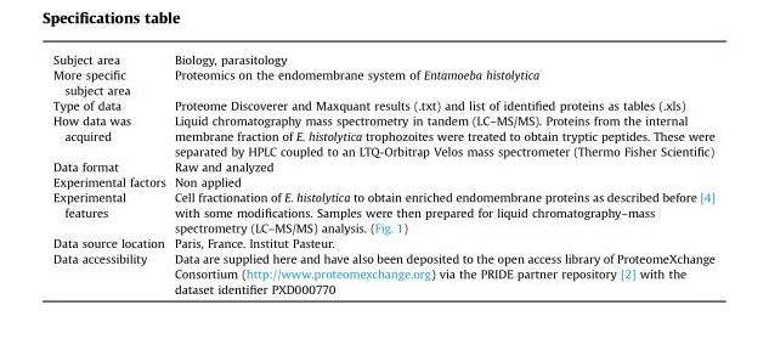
<table><tbody><tr><td>Subject area</td><td>Biology, parasitology</td></tr><tr><td>More specific subject area</td><td>Proteomics on the endomembrane system of Entamoeba histolytica</td></tr><tr><td>Type of data</td><td>Proteome Discoverer and Maxquant results (.txt) and list of identified proteins as tables (.xls)</td></tr><tr><td>How data was acquired</td><td>Liquid chromatography mass spectrometry in tandem (LC–MS/MS). Proteins from the internal membrane fraction of E. histolytica trophozoites were treated to obtain tryptic peptides. These were separated by HPLC coupled to an LTQ-Orbitrap Velos mass spectrometer (Thermo Fisher Scientific)</td></tr><tr><td>Data format</td><td>Raw and analyzed</td></tr><tr><td>Experimental factors</td><td>Non applied</td></tr><tr><td>Experimental features</td><td>Cell fractionation of E. histolytica to obtain enriched endomembrane proteins as described before [4] with some modifications. Samples were then prepared for liquid chromatography–mass spectrometry (LC–MS/MS) analysis. (Fig. 1)</td></tr><tr><td>Data source location</td><td>Paris, France. Institut Pasteur.</td></tr><tr><td>Data accessibility</td><td>Data are supplied here and have also been deposited to the open access library of ProteomeXchange Consortium (http://www.proteomexchange.org) via the PRIDE partner repository [2] with the dataset identifier PXD000770</td></tr></tbody></table>